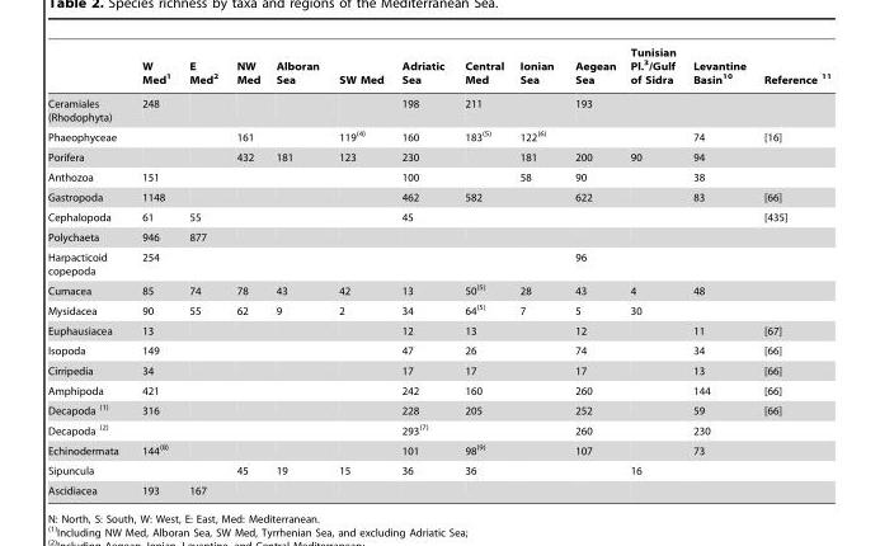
<table><thead><tr><td></td><td>W Med<sup>1</sup></td><td>E Med<sup>2</sup></td><td>NW Med</td><td>Alboran Sea</td><td>SW Med</td><td>Adriatic Sea</td><td>Central Med</td><td>Ionian Sea</td><td>Aegean Sea</td><td>Tunisian Pl.<sup>3</sup>/Gulf of Sidra</td><td>Levantine Basin<sup>10</sup></td><td>Reference 11</td></tr></thead><tbody><tr><td>Ceramiales (Rhodophyta)</td><td>248</td><td></td><td></td><td></td><td></td><td>198</td><td colspan="2">211</td><td colspan="3">193</td><td></td></tr><tr><td>Phaeophyceae</td><td></td><td></td><td>161</td><td></td><td>119(4)</td><td>160</td><td>183(5)</td><td colspan="2">122(6)</td><td></td><td>74</td><td>[16]</td></tr><tr><td>Porifera</td><td></td><td></td><td>432</td><td>181</td><td>123</td><td>230</td><td></td><td>181</td><td>200</td><td>90</td><td>94</td><td></td></tr><tr><td>Anthozoa</td><td>151</td><td></td><td></td><td></td><td></td><td>100</td><td></td><td>58</td><td>90</td><td></td><td>38</td><td></td></tr><tr><td>Gastropoda</td><td>1148</td><td></td><td></td><td></td><td></td><td>462</td><td colspan="2">582</td><td>622</td><td></td><td>83</td><td>[66]</td></tr><tr><td>Cephalopoda</td><td>61</td><td>55</td><td></td><td></td><td></td><td>45</td><td></td><td></td><td></td><td></td><td></td><td>[435]</td></tr><tr><td>Polychaeta</td><td>946</td><td>877</td><td></td><td></td><td></td><td></td><td></td><td></td><td></td><td></td><td></td><td></td></tr><tr><td>Harpacticoid copepoda</td><td>254</td><td></td><td></td><td></td><td></td><td></td><td></td><td></td><td>96</td><td></td><td></td><td></td></tr><tr><td>Cumacea</td><td>85</td><td>74</td><td>78</td><td>43</td><td>42</td><td>13</td><td>50(5)</td><td>28</td><td>43</td><td>4</td><td>48</td><td></td></tr><tr><td>Mysidacea</td><td>90</td><td>55</td><td>62</td><td>9</td><td>2</td><td>34</td><td>64(5)</td><td>7</td><td>5</td><td colspan="2">30</td><td></td></tr><tr><td>Euphausiacea</td><td>13</td><td></td><td></td><td></td><td></td><td>12</td><td>13</td><td></td><td>12</td><td></td><td>11</td><td>[67]</td></tr><tr><td>Isopoda</td><td>149</td><td></td><td></td><td></td><td></td><td>47</td><td colspan="2">26</td><td>74</td><td></td><td>34</td><td>[66]</td></tr><tr><td>Cirripedia</td><td>34</td><td></td><td></td><td></td><td></td><td>17</td><td colspan="2">17</td><td>17</td><td></td><td>13</td><td>[66]</td></tr><tr><td>Amphipoda</td><td>421</td><td></td><td></td><td></td><td></td><td>242</td><td colspan="2">160</td><td>260</td><td></td><td>144</td><td>[66]</td></tr><tr><td>Decapoda (1)</td><td>316</td><td></td><td></td><td></td><td></td><td>228</td><td>205</td><td></td><td>252</td><td></td><td>59</td><td>[66]</td></tr><tr><td>Decapoda (2)</td><td></td><td></td><td></td><td></td><td></td><td colspan="2">293(7)</td><td></td><td>260</td><td></td><td>230</td><td></td></tr><tr><td>Echinodermata</td><td>144(8)</td><td></td><td></td><td></td><td></td><td>101</td><td>98(9)</td><td></td><td>107</td><td></td><td>73</td><td></td></tr><tr><td>Sipuncula</td><td></td><td></td><td>45</td><td>19</td><td>15</td><td>36</td><td colspan="3">36</td><td colspan="2">16</td><td></td></tr><tr><td>Ascidiacea</td><td>193</td><td>167</td><td></td><td></td><td></td><td></td><td></td><td></td><td></td><td></td><td></td><td></td></tr></tbody></table>